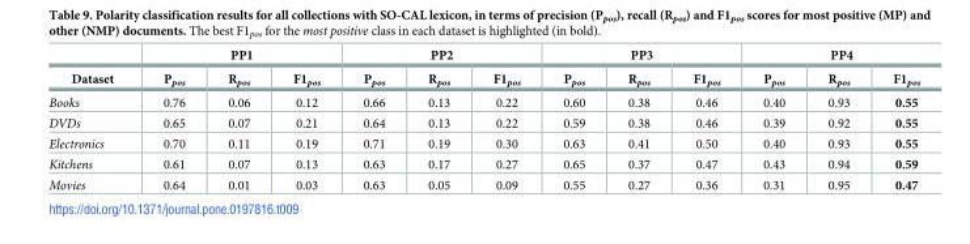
<table><thead><tr><td rowspan="2">Dataset</td><td colspan="3">PP1</td><td colspan="3">PP2</td><td colspan="3">PP3</td><td colspan="3">PP4</td></tr><tr><td>P<sub>pos</sub></td><td>R<sub>pos</sub></td><td>F1<sub>pos</sub></td><td>P<sub>pos</sub></td><td>R<sub>pos</sub></td><td>F1<sub>pos</sub></td><td>P<sub>pos</sub></td><td>R<sub>pos</sub></td><td>F1<sub>pos</sub></td><td>P<sub>pos</sub></td><td>R<sub>pos</sub></td><td>F1<sub>pos</sub></td></tr></thead><tbody><tr><td>Books</td><td>0.76</td><td>0.06</td><td>0.12</td><td>0.66</td><td>0.13</td><td>0.22</td><td>0.60</td><td>0.38</td><td>0.46</td><td>0.40</td><td>0.93</td><td>0.55</td></tr><tr><td>DVDs</td><td>0.65</td><td>0.07</td><td>0.21</td><td>0.64</td><td>0.13</td><td>0.22</td><td>0.59</td><td>0.38</td><td>0.46</td><td>0.39</td><td>0.92</td><td>0.55</td></tr><tr><td>Electronics</td><td>0.70</td><td>0.11</td><td>0.19</td><td>0.71</td><td>0.19</td><td>0.30</td><td>0.63</td><td>0.41</td><td>0.50</td><td>0.40</td><td>0.93</td><td>0.55</td></tr><tr><td>Kitchens</td><td>0.61</td><td>0.07</td><td>0.13</td><td>0.63</td><td>0.17</td><td>0.27</td><td>0.65</td><td>0.37</td><td>0.47</td><td>0.43</td><td>0.94</td><td>0.59</td></tr><tr><td>Movies</td><td>0.64</td><td>0.01</td><td>0.03</td><td>0.63</td><td>0.05</td><td>0.09</td><td>0.55</td><td>0.27</td><td>0.36</td><td>0.31</td><td>0.95</td><td>0.47</td></tr></tbody></table>